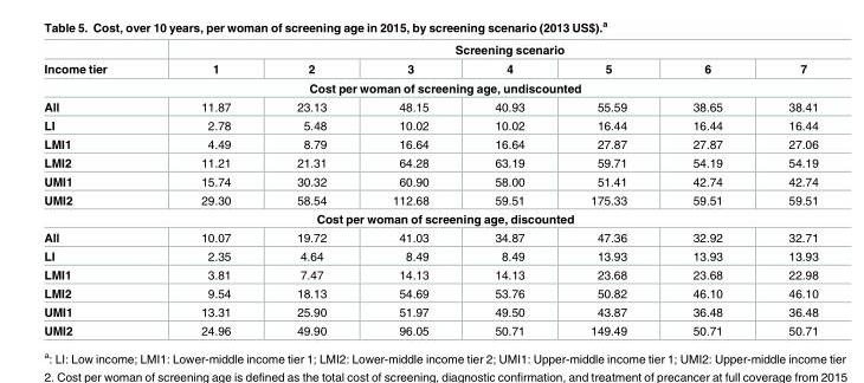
<table><thead><tr><td rowspan="2">Income tier</td><td colspan="7">Screening scenario</td></tr><tr><td>1</td><td>2</td><td>3</td><td>4</td><td>5</td><td>6</td><td>7</td></tr></thead><tbody><tr><td colspan="8">Cost per woman of screening age, undiscounted</td></tr><tr><td>All</td><td>11.87</td><td>23.13</td><td>48.15</td><td>40.93</td><td>55.59</td><td>38.65</td><td>38.41</td></tr><tr><td>LI</td><td>2.78</td><td>5.48</td><td>10.02</td><td>10.02</td><td>16.44</td><td>16.44</td><td>16.44</td></tr><tr><td>LMI1</td><td>4.49</td><td>8.79</td><td>16.64</td><td>16.64</td><td>27.87</td><td>27.87</td><td>27.06</td></tr><tr><td>LMI2</td><td>11.21</td><td>21.31</td><td>64.28</td><td>63.19</td><td>59.71</td><td>54.19</td><td>54.19</td></tr><tr><td>UMI1</td><td>15.74</td><td>30.32</td><td>60.90</td><td>58.00</td><td>51.41</td><td>42.74</td><td>42.74</td></tr><tr><td>UMI2</td><td>29.30</td><td>58.54</td><td>112.68</td><td>59.51</td><td>175.33</td><td>59.51</td><td>59.51</td></tr><tr><td colspan="8">Cost per woman of screening age, discounted</td></tr><tr><td>All</td><td>10.07</td><td>19.72</td><td>41.03</td><td>34.87</td><td>47.36</td><td>32.92</td><td>32.71</td></tr><tr><td>LI</td><td>2.35</td><td>4.64</td><td>8.49</td><td>8.49</td><td>13.93</td><td>13.93</td><td>13.93</td></tr><tr><td>LMI1</td><td>3.81</td><td>7.47</td><td>14.13</td><td>14.13</td><td>23.68</td><td>23.68</td><td>22.98</td></tr><tr><td>LMI2</td><td>9.54</td><td>18.13</td><td>54.69</td><td>53.76</td><td>50.82</td><td>46.10</td><td>46.10</td></tr><tr><td>UMI1</td><td>13.31</td><td>25.90</td><td>51.97</td><td>49.50</td><td>43.87</td><td>36.48</td><td>36.48</td></tr><tr><td>UMI2</td><td>24.96</td><td>49.90</td><td>96.05</td><td>50.71</td><td>149.49</td><td>50.71</td><td>50.71</td></tr></tbody></table>